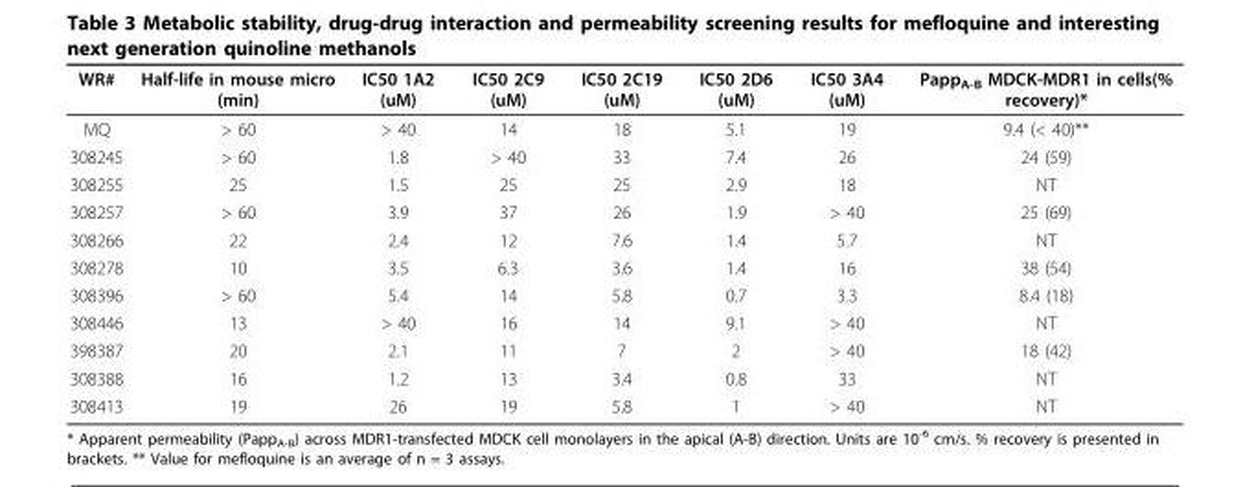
<table><thead><tr><td>WR#</td><td>Half-life in mouse micro (min)</td><td>IC50 1A2 (uM)</td><td>IC50 2C9 (uM)</td><td>IC50 2C19 (uM)</td><td>IC50 2D6 (uM)</td><td>IC50 3A4 (uM)</td><td>Papp<sub>A-B</sub> MDCK-MDR1 in cells(% recovery)*</td></tr></thead><tbody><tr><td>MQ</td><td>&gt; 60</td><td>&gt; 40</td><td>14</td><td>18</td><td>5.1</td><td>19</td><td>9.4 (&lt; 40)**</td></tr><tr><td>308245</td><td>&gt; 60</td><td>1.8</td><td>&gt; 40</td><td>33</td><td>7.4</td><td>26</td><td>24 (59)</td></tr><tr><td>308255</td><td>25</td><td>1.5</td><td>25</td><td>25</td><td>2.9</td><td>18</td><td>NT</td></tr><tr><td>308257</td><td>&gt; 60</td><td>3.9</td><td>37</td><td>26</td><td>1.9</td><td>&gt; 40</td><td>25 (69)</td></tr><tr><td>308266</td><td>22</td><td>2.4</td><td>12</td><td>7.6</td><td>1.4</td><td>5.7</td><td>NT</td></tr><tr><td>308278</td><td>10</td><td>3.5</td><td>6.3</td><td>3.6</td><td>1.4</td><td>16</td><td>38 (54)</td></tr><tr><td>308396</td><td>&gt; 60</td><td>5.4</td><td>14</td><td>5.8</td><td>0.7</td><td>3.3</td><td>8.4 (18)</td></tr><tr><td>308446</td><td>13</td><td>&gt; 40</td><td>16</td><td>14</td><td>9.1</td><td>&gt; 40</td><td>NT</td></tr><tr><td>398387</td><td>20</td><td>2.1</td><td>11</td><td>7</td><td>2</td><td>&gt; 40</td><td>18 (42)</td></tr><tr><td>308388</td><td>16</td><td>1.2</td><td>13</td><td>3.4</td><td>0.8</td><td>33</td><td>NT</td></tr><tr><td>308413</td><td>19</td><td>26</td><td>19</td><td>5.8</td><td>1</td><td>&gt; 40</td><td>NT</td></tr></tbody></table>